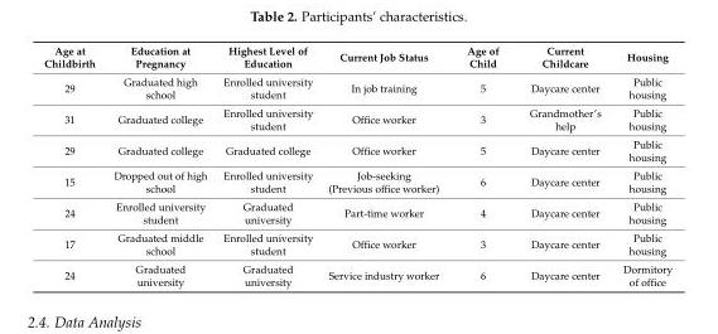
<table><thead><tr><td>Age at Childbirth</td><td>Education at Pregnancy</td><td>Highest Level of Education</td><td>Current Job Status</td><td>Age of Child</td><td>Current Childcare</td><td>Housing</td></tr></thead><tbody><tr><td>29</td><td>Graduated high school</td><td>Enrolled university student</td><td>In job training</td><td>5</td><td>Daycare center</td><td>Public housing</td></tr><tr><td>31</td><td>Graduated college</td><td>Enrolled university student</td><td>Office worker</td><td>3</td><td>Grandmother’s help</td><td>Public housing</td></tr><tr><td>29</td><td>Graduated college</td><td>Graduated college</td><td>Office worker</td><td>5</td><td>Daycare center</td><td>Public housing</td></tr><tr><td>15</td><td>Dropped out of high school</td><td>Enrolled university student</td><td>Job-seeking (Previous office worker)</td><td>6</td><td>Daycare center</td><td>Public housing</td></tr><tr><td>24</td><td>Enrolled university student</td><td>Graduated university</td><td>Part-time worker</td><td>4</td><td>Daycare center</td><td>Public housing</td></tr><tr><td>17</td><td>Graduated middle school</td><td>Enrolled university student</td><td>Office worker</td><td>3</td><td>Daycare center</td><td>Public housing</td></tr><tr><td>24</td><td>Graduated university</td><td>Graduated university</td><td>Service industry worker</td><td>6</td><td>Daycare center</td><td>Dormitory of office</td></tr></tbody></table>